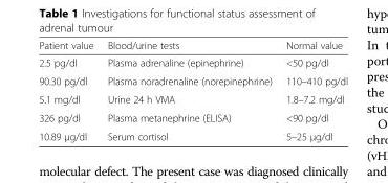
<table><thead><tr><td>Patient value</td><td>Blood/urine tests</td><td>Normal value</td></tr></thead><tbody><tr><td>2.5 pg/dl</td><td>Plasma adrenaline (epinephrine)</td><td>&lt;50 pg/dl</td></tr><tr><td>90.30 pg/dl</td><td>Plasma noradrenaline (norepinephrine)</td><td>110–410 pg/dl</td></tr><tr><td>5.1 mg/dl</td><td>Urine 24 h VMA</td><td>1.8–7.2 mg/dl</td></tr><tr><td>326 pg/dl</td><td>Plasma metanephrine (ELISA)</td><td>&lt;90 pg/dl</td></tr><tr><td>10.89 μg/dl</td><td>Serum cortisol</td><td>5–25 μg/dl</td></tr></tbody></table>